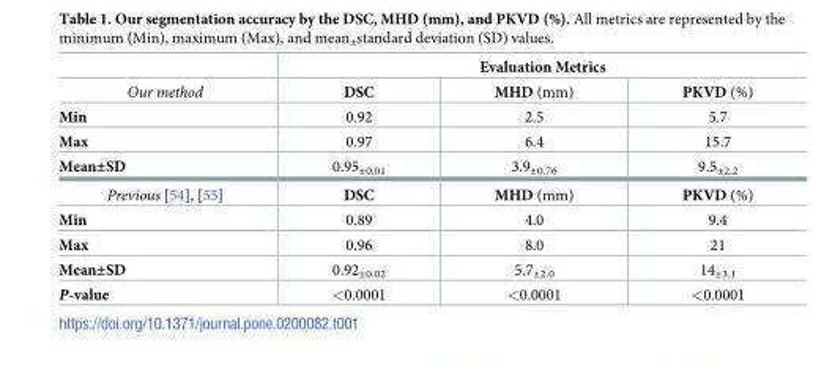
<table><thead><tr><td rowspan="2">Our method</td><td colspan="3">Evaluation Metrics</td></tr><tr><td>DSC</td><td>MHD (mm)</td><td>PKVD (%)</td></tr></thead><tbody><tr><td>Min</td><td>0.92</td><td>2.5</td><td>5.7</td></tr><tr><td>Max</td><td>0.97</td><td>6.4</td><td>15.7</td></tr><tr><td>Mean±SD</td><td>0.95<sub>±0.01</sub></td><td>3.9<sub>±0.76</sub></td><td>9.5<sub>±2.2</sub></td></tr><tr><td>Previous [54], [55]</td><td>DSC</td><td>MHD (mm)</td><td>PKVD (%)</td></tr><tr><td>Min</td><td>0.89</td><td>4.0</td><td>9.4</td></tr><tr><td>Max</td><td>0.96</td><td>8.0</td><td>21</td></tr><tr><td>Mean±SD</td><td>0.92<sub>±0.02</sub></td><td>5.7<sub>±2.0</sub></td><td>14<sub>±3.1</sub></td></tr><tr><td>P-value</td><td>&lt;0.0001</td><td>&lt;0.0001</td><td>&lt;0.0001</td></tr></tbody></table>